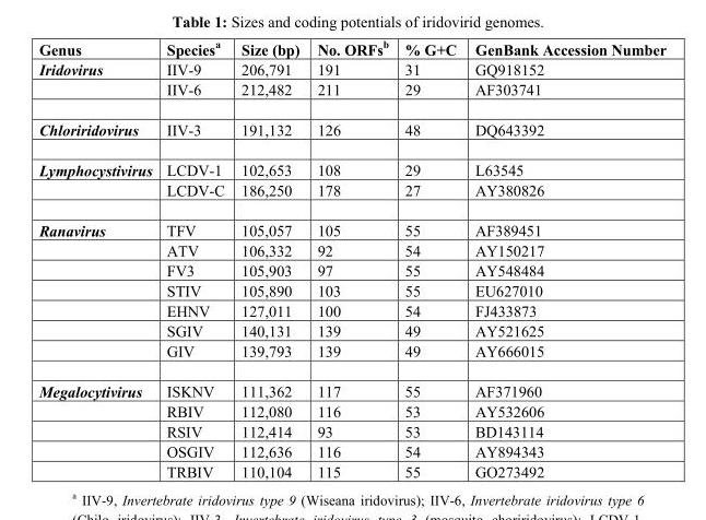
<table><thead><tr><td>Genus</td><td>Species<sup>a</sup></td><td>Size (bp)</td><td>No. ORFs<sup>b</sup></td><td>% G+C</td><td>GenBank Accession Number</td></tr></thead><tbody><tr><td rowspan="2">Iridovirus</td><td>IIV-9</td><td>206,791</td><td>191</td><td>31</td><td>GQ918152</td></tr><tr><td>IIV-6</td><td>212,482</td><td>211</td><td>29</td><td>AF303741</td></tr><tr><td>Chloriridovirus</td><td>IIV-3</td><td>191,132</td><td>126</td><td>48</td><td>DQ643392</td></tr><tr><td rowspan="2">Lymphocystivirus</td><td>LCDV-1</td><td>102,653</td><td>108</td><td>29</td><td>L63545</td></tr><tr><td>LCDV-C</td><td>186,250</td><td>178</td><td>27</td><td>AY380826</td></tr><tr><td rowspan="7">Ranavirus</td><td>TFV</td><td>105,057</td><td>105</td><td>55</td><td>AF389451</td></tr><tr><td>ATV</td><td>106,332</td><td>92</td><td>54</td><td>AY150217</td></tr><tr><td>FV3</td><td>105,903</td><td>97</td><td>55</td><td>AY548484</td></tr><tr><td>STIV</td><td>105,890</td><td>103</td><td>55</td><td>EU627010</td></tr><tr><td>EHNV</td><td>127,011</td><td>100</td><td>54</td><td>FJ433873</td></tr><tr><td>SGIV</td><td>140,131</td><td>139</td><td>49</td><td>AY521625</td></tr><tr><td>GIV</td><td>139,793</td><td>139</td><td>49</td><td>AY666015</td></tr><tr><td rowspan="5">Megalocytivirus</td><td>ISKNV</td><td>111,362</td><td>117</td><td>55</td><td>AF371960</td></tr><tr><td>RBIV</td><td>112,080</td><td>116</td><td>53</td><td>AY532606</td></tr><tr><td>RSIV</td><td>112,414</td><td>93</td><td>53</td><td>BD143114</td></tr><tr><td>OSGIV</td><td>112,636</td><td>116</td><td>54</td><td>AY894343</td></tr><tr><td>TRBIV</td><td>110,104</td><td>115</td><td>55</td><td>GO273492</td></tr></tbody></table>